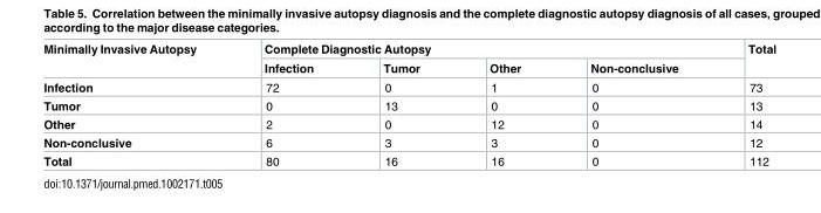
<table><thead><tr><td rowspan="2">Minimally Invasive Autopsy</td><td colspan="4">Complete Diagnostic Autopsy</td><td rowspan="2">Total</td></tr><tr><td>Infection</td><td>Tumor</td><td>Other</td><td>Non-conclusive</td></tr></thead><tbody><tr><td>Infection</td><td>72</td><td>0</td><td>1</td><td>0</td><td>73</td></tr><tr><td>Tumor</td><td>0</td><td>13</td><td>0</td><td>0</td><td>13</td></tr><tr><td>Other</td><td>2</td><td>0</td><td>12</td><td>0</td><td>14</td></tr><tr><td>Non-conclusive</td><td>6</td><td>3</td><td>3</td><td>0</td><td>12</td></tr><tr><td>Total</td><td>80</td><td>16</td><td>16</td><td>0</td><td>112</td></tr></tbody></table>